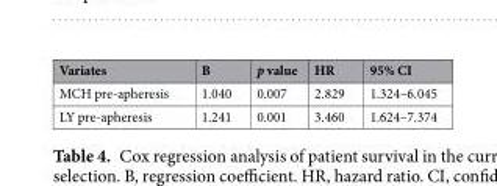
<table><thead><tr><td>Variates</td><td>B</td><td>p value</td><td>HR</td><td>95% CI</td></tr></thead><tbody><tr><td>MCH pre-apheresis</td><td>1.040</td><td>0.007</td><td>2.829</td><td>1.324–6.045</td></tr><tr><td>LY pre-apheresis</td><td>1.241</td><td>0.001</td><td>3.460</td><td>1.624–7.374</td></tr></tbody></table>